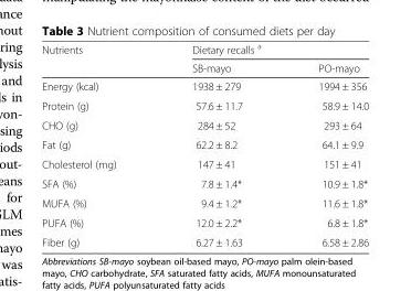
<table><thead><tr><td rowspan="2">Nutrients</td><td colspan="2">Dietary recalls <sup>a</sup></td></tr><tr><td>SB-mayo</td><td>PO-mayo</td></tr></thead><tbody><tr><td>Energy (kcal)</td><td>1938 ± 279</td><td>1994 ± 356</td></tr><tr><td>Protein (g)</td><td>57.6 ± 11.7</td><td>58.9 ± 14.0</td></tr><tr><td>CHO (g)</td><td>284 ± 52</td><td>293 ± 64</td></tr><tr><td>Fat (g)</td><td>62.2 ± 8.2</td><td>64.1 ± 9.9</td></tr><tr><td>Cholesterol (mg)</td><td>147 ± 41</td><td>151 ± 41</td></tr><tr><td>SFA (%)</td><td>7.8 ± 1.4*</td><td>10.9 ± 1.8*</td></tr><tr><td>MUFA (%)</td><td>9.4 ± 1.2*</td><td>11.6 ± 1.8*</td></tr><tr><td>PUFA (%)</td><td>12.0 ± 2.2*</td><td>6.8 ± 1.8*</td></tr><tr><td>Fiber (g)</td><td>6.27 ± 1.63</td><td>6.58 ± 2.86</td></tr></tbody></table>